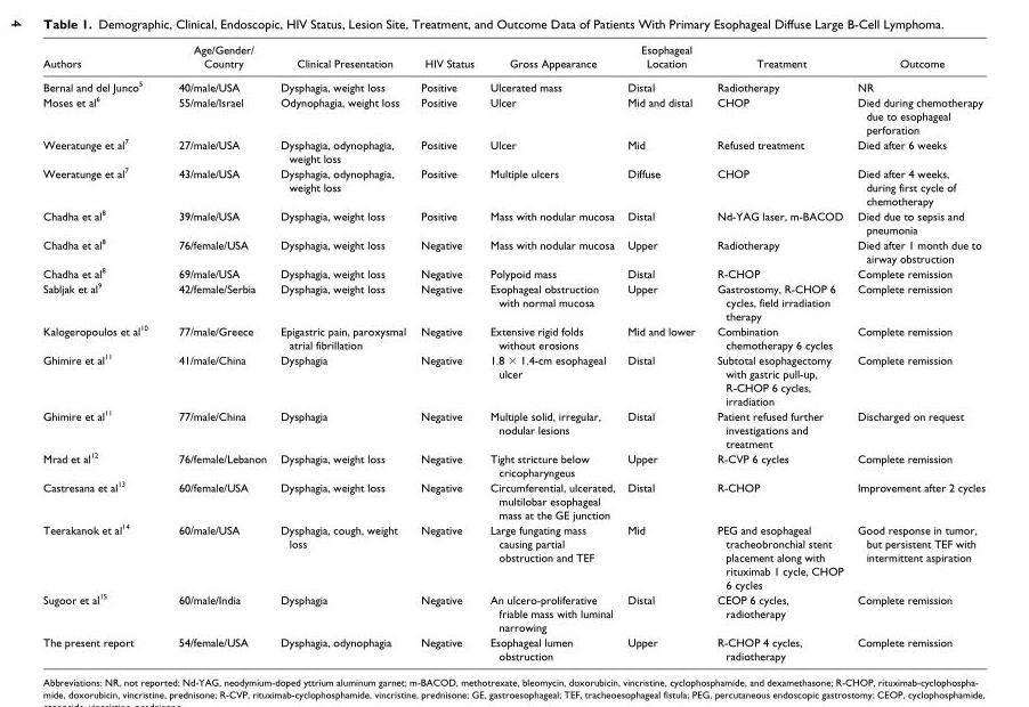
<table><thead><tr><td>Authors</td><td>Age/Gender/ Country</td><td>Clinical Presentation</td><td>HIV Status</td><td>Gross Appearance</td><td>Esophageal Location</td><td>Treatment</td><td>Outcome</td></tr></thead><tbody><tr><td>Bernal and del Junco<sup>5</sup></td><td>40/male/USA</td><td>Dysphagia, weight loss</td><td>Positive</td><td>Ulcerated mass</td><td>Distal</td><td>Radiotherapy</td><td>NR</td></tr><tr><td>Moses et al<sup>6</sup></td><td>55/male/Israel</td><td>Odynophagia, weight loss</td><td>Positive</td><td>Ulcer</td><td>Mid and distal</td><td>CHOP</td><td>Died during chemotherapy due to esophageal perforation</td></tr><tr><td>Weeratunge et al<sup>7</sup></td><td>27/male/USA</td><td>Dysphagia, odynophagia, weight loss</td><td>Positive</td><td>Ulcer</td><td>Mid</td><td>Refused treatment</td><td>Died after 6 weeks</td></tr><tr><td>Weeratunge et al<sup>7</sup></td><td>43/male/USA</td><td>Dysphagia, odynophagia, weight loss</td><td>Positive</td><td>Multiple ulcers</td><td>Diffuse</td><td>CHOP</td><td>Died after 4 weeks, during first cycle of chemotherapy</td></tr><tr><td>Chadha et al<sup>8</sup></td><td>39/male/USA</td><td>Dysphagia, weight loss</td><td>Positive</td><td>Mass with nodular mucosa</td><td>Distal</td><td>Nd-YAG laser, m-BACOD</td><td>Died due to sepsis and pneumonia</td></tr><tr><td>Chadha et al<sup>8</sup></td><td>76/female/USA</td><td>Dysphagia, weight loss</td><td>Negative</td><td>Mass with nodular mucosa</td><td>Upper</td><td>Radiotherapy</td><td>Died after 1 month due to airway obstruction</td></tr><tr><td>Chadha et al<sup>8</sup></td><td>69/male/USA</td><td>Dysphagia, weight loss</td><td>Negative</td><td>Polypoid mass</td><td>Distal</td><td>R-CHOP</td><td>Complete remission</td></tr><tr><td>Sabljak et al<sup>9</sup></td><td>42/female/Serbia</td><td>Dysphagia, weight loss</td><td>Negative</td><td>Esophageal obstruction with normal mucosa</td><td>Upper</td><td>Gastrostomy, R-CHOP 6 cycles, field irradiation therapy</td><td>Complete remission</td></tr><tr><td>Kalogeropoulos et al<sup>10</sup></td><td>77/male/Greece</td><td>Epigastric pain, paroxysmal atrial fibrillation</td><td>Negative</td><td>Extensive rigid folds without erosions</td><td>Mid and lower</td><td>Combination chemotherapy 6 cycles</td><td>Complete remission</td></tr><tr><td>Ghimire et al<sup>11</sup></td><td>41/male/China</td><td>Dysphagia</td><td>Negative</td><td>1.8 × 1.4-cm esophageal ulcer</td><td>Distal</td><td>Subtotal esophagectomy with gastric pull-up, R-CHOP 6 cycles, irradiation</td><td>Complete remission</td></tr><tr><td>Ghimire et al<sup>11</sup></td><td>77/male/China</td><td>Dysphagia</td><td>Negative</td><td>Multiple solid, irregular, nodular lesions</td><td>Distal</td><td>Patient refused further investigations and treatment</td><td>Discharged on request</td></tr><tr><td>Mrad et al<sup>12</sup></td><td>76/female/Lebanon</td><td>Dysphagia, weight loss</td><td>Negative</td><td>Tight stricture below cricopharyngeus</td><td>Upper</td><td>R-CVP 6 cycles</td><td>Complete remission</td></tr><tr><td>Castresana et al<sup>13</sup></td><td>60/female/USA</td><td>Dysphagia, weight loss</td><td>Negative</td><td>Circumferential, ulcerated, multilobar esophageal mass at the GE junction</td><td>Distal</td><td>R-CHOP</td><td>Improvement after 2 cycles</td></tr><tr><td>Teerakanok et al<sup>14</sup></td><td>60/male/USA</td><td>Dysphagia, cough, weight loss</td><td>Negative</td><td>Large fungating mass causing partial obstruction and TEF</td><td>Mid</td><td>PEG and esophageal tracheobronchial stent placement along with rituximab 1 cycle, CHOP 6 cycles</td><td>Good response in tumor, but persistent TEF with intermittent aspiration</td></tr><tr><td>Sugoor et al<sup>15</sup></td><td>60/male/India</td><td>Dysphagia</td><td>Negative</td><td>An ulcero-proliferative friable mass with luminal narrowing</td><td>Distal</td><td>CEOP 6 cycles, radiotherapy</td><td>Complete remission</td></tr><tr><td>The present report</td><td>54/female/USA</td><td>Dysphagia, odynophagia</td><td>Negative</td><td>Esophageal lumen obstruction</td><td>Upper</td><td>R-CHOP 4 cycles, radiotherapy</td><td>Complete remission</td></tr></tbody></table>